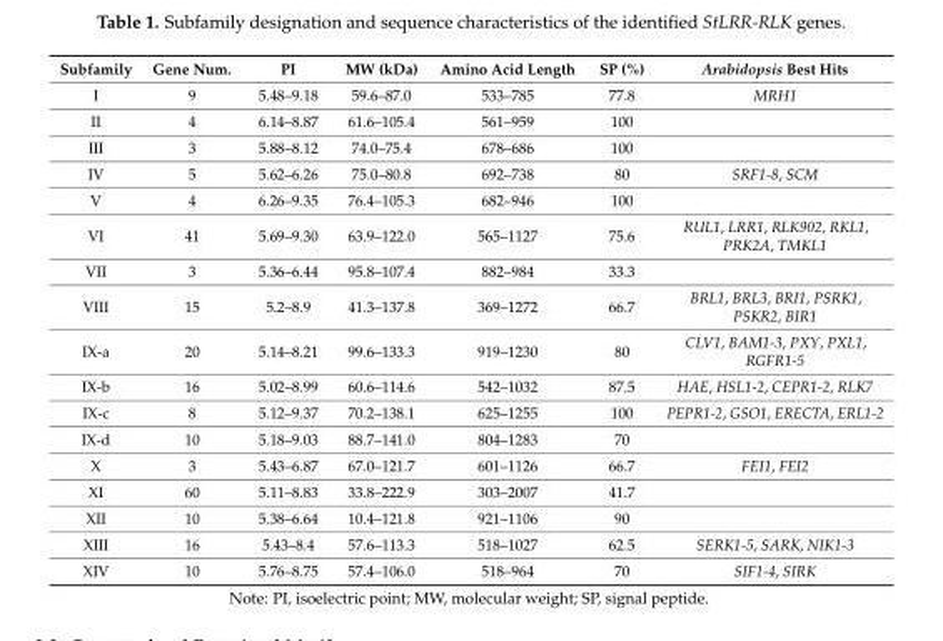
<table><thead><tr><td>Subfamily</td><td>Gene Num.</td><td>PI</td><td>MW (kDa)</td><td>Amino Acid Length</td><td>SP (%)</td><td>Arabidopsis Best Hits</td></tr></thead><tbody><tr><td>I</td><td>9</td><td>5.48–9.18</td><td>59.6–87.0</td><td>533–785</td><td>77.8</td><td>MRH1</td></tr><tr><td>II</td><td>4</td><td>6.14–8.87</td><td>61.6–105.4</td><td>561–959</td><td>100</td><td></td></tr><tr><td>III</td><td>3</td><td>5.88–8.12</td><td>74.0–75.4</td><td>678–686</td><td>100</td><td></td></tr><tr><td>IV</td><td>5</td><td>5.62–6.26</td><td>75.0–80.8</td><td>692–738</td><td>80</td><td>SRF1-8, SCM</td></tr><tr><td>V</td><td>4</td><td>6.26–9.35</td><td>76.4–105.3</td><td>682–946</td><td>100</td><td></td></tr><tr><td>VI</td><td>41</td><td>5.69–9.30</td><td>63.9–122.0</td><td>565–1127</td><td>75.6</td><td>RUL1, LRR1, RLK902, RKL1, PRK2A, TMKL1</td></tr><tr><td>VII</td><td>3</td><td>5.36–6.44</td><td>95.8–107.4</td><td>882–984</td><td>33.3</td><td></td></tr><tr><td>VIII</td><td>15</td><td>5.2–8.9</td><td>41.3–137.8</td><td>369–1272</td><td>66.7</td><td>BRL1, BRL3, BRI1, PSRK1, PSKR2, BIR1</td></tr><tr><td>IX-a</td><td>20</td><td>5.14–8.21</td><td>99.6–133.3</td><td>919–1230</td><td>80</td><td>CLV1, BAM1-3, PXY, PXL1, RGFR1-5</td></tr><tr><td>IX-b</td><td>16</td><td>5.02–8.99</td><td>60.6–114.6</td><td>542–1032</td><td>87.5</td><td>HAE, HSL1-2, CEPR1-2, RLK7</td></tr><tr><td>IX-c</td><td>8</td><td>5.12–9.37</td><td>70.2–138.1</td><td>625–1255</td><td>100</td><td>PEPR1-2, GSO1, ERECTA, ERL1-2</td></tr><tr><td>IX-d</td><td>10</td><td>5.18–9.03</td><td>88.7–141.0</td><td>804–1283</td><td>70</td><td></td></tr><tr><td>X</td><td>3</td><td>5.43–6.87</td><td>67.0–121.7</td><td>601–1126</td><td>66.7</td><td>FEI1, FEI2</td></tr><tr><td>XI</td><td>60</td><td>5.11–8.83</td><td>33.8–222.9</td><td>303–2007</td><td>41.7</td><td></td></tr><tr><td>XII</td><td>10</td><td>5.38–6.64</td><td>10.4–121.8</td><td>921–1106</td><td>90</td><td></td></tr><tr><td>XIII</td><td>16</td><td>5.43–8.4</td><td>57.6–113.3</td><td>518–1027</td><td>62.5</td><td>SERK1-5, SARK, NIK1-3</td></tr><tr><td>XIV</td><td>10</td><td>5.76–8.75</td><td>57.4–106.0</td><td>518–964</td><td>70</td><td>SIF1-4, SIRK</td></tr></tbody></table>